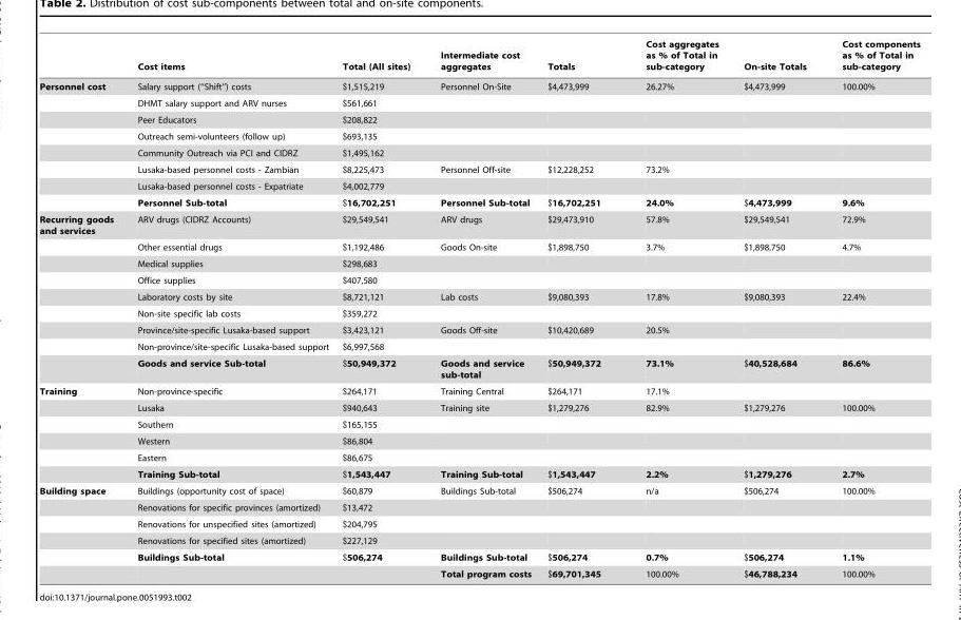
<table><thead><tr><td></td><td>Cost items</td><td>Total (All sites)</td><td>Intermediate cost aggregates</td><td>Totals</td><td>Cost aggregates as % of Total in sub-category</td><td>On-site Totals</td><td>Cost components as % of Total in sub-category</td></tr></thead><tbody><tr><td rowspan="8">Personnel cost</td><td>Salary support (‘‘Shift’’) costs</td><td>$1,515,219</td><td>Personnel On-Site</td><td>$4,473,999</td><td>26.27%</td><td>$4,473,999</td><td>100.00%</td></tr><tr><td>DHMT salary support and ARV nurses</td><td>$561,661</td><td></td><td></td><td></td><td></td><td></td></tr><tr><td>Peer Educators</td><td>$208,822</td><td></td><td></td><td></td><td></td><td></td></tr><tr><td>Outreach semi-volunteers (follow up)</td><td>$693,135</td><td></td><td></td><td></td><td></td><td></td></tr><tr><td>Community Outreach via PCI and CIDRZ</td><td>$1,495,162</td><td></td><td></td><td></td><td></td><td></td></tr><tr><td>Lusaka-based personnel costs - Zambian</td><td>$8,225,473</td><td>Personnel Off-site</td><td>$12,228,252</td><td>73.2%</td><td></td><td></td></tr><tr><td>Lusaka-based personnel costs - Expatriate</td><td>$4,002,779</td><td></td><td></td><td></td><td></td><td></td></tr><tr><td>Personnel Sub-total</td><td>$16,702,251</td><td>Personnel Sub-total</td><td>$16,702,251</td><td>24.0%</td><td>$4,473,999</td><td>9.6%</td></tr><tr><td rowspan="9">Recurring goods and services</td><td>ARV drugs (CIDRZ Accounts)</td><td>$29,549,541</td><td>ARV drugs</td><td>$29,473,910</td><td>57.8%</td><td>$29,549,541</td><td>72.9%</td></tr><tr><td>Other essential drugs</td><td>$1,192,486</td><td>Goods On-site</td><td>$1,898,750</td><td>3.7%</td><td>$1,898,750</td><td>4.7%</td></tr><tr><td>Medical supplies</td><td>$298,683</td><td></td><td></td><td></td><td></td><td></td></tr><tr><td>Office supplies</td><td>$407,580</td><td></td><td></td><td></td><td></td><td></td></tr><tr><td>Laboratory costs by site</td><td>$8,721,121</td><td>Lab costs</td><td>$9,080,393</td><td>17.8%</td><td>$9,080,393</td><td>22.4%</td></tr><tr><td>Non-site specific lab costs</td><td>$359,272</td><td></td><td></td><td></td><td></td><td></td></tr><tr><td>Province/site-specific Lusaka-based support</td><td>$3,423,121</td><td>Goods Off-site</td><td>$10,420,689</td><td>20.5%</td><td></td><td></td></tr><tr><td>Non-province/site-specific Lusaka-based support</td><td>$6,997,568</td><td></td><td></td><td></td><td></td><td></td></tr><tr><td>Goods and service Sub-total</td><td>$50,949,372</td><td>Goods and service sub-total</td><td>$50,949,372</td><td>73.1%</td><td>$40,528,684</td><td>86.6%</td></tr><tr><td rowspan="6">Training</td><td>Non-province-specific</td><td>$264,171</td><td>Training Central</td><td>$264,171</td><td>17.1%</td><td></td><td></td></tr><tr><td>Lusaka</td><td>$940,643</td><td>Training site</td><td>$1,279,276</td><td>82.9%</td><td>$1,279,276</td><td>100.00%</td></tr><tr><td>Southern</td><td>$165,155</td><td></td><td></td><td></td><td></td><td></td></tr><tr><td>Western</td><td>$86,804</td><td></td><td></td><td></td><td></td><td></td></tr><tr><td>Eastern</td><td>$86,675</td><td></td><td></td><td></td><td></td><td></td></tr><tr><td>Training Sub-total</td><td>$1,543,447</td><td>Training Sub-total</td><td>$1,543,447</td><td>2.2%</td><td>$1,279,276</td><td>2.7%</td></tr><tr><td rowspan="6">Building space</td><td>Buildings (opportunity cost of space)</td><td>$60,879</td><td>Buildings Sub-total</td><td>$506,274</td><td>n/a</td><td>$506,274</td><td>100.00%</td></tr><tr><td>Renovations for specific provinces (amortized)</td><td>$13,472</td><td></td><td></td><td></td><td></td><td></td></tr><tr><td>Renovations for unspecified sites (amortized)</td><td>$204,795</td><td></td><td></td><td></td><td></td><td></td></tr><tr><td>Renovations for specified sites (amortized)</td><td>$227,129</td><td></td><td></td><td></td><td></td><td></td></tr><tr><td>Buildings Sub-total</td><td>$506,274</td><td>Buildings Sub-total</td><td>$506,274</td><td>0.7%</td><td>$506,274</td><td>1.1%</td></tr><tr><td></td><td></td><td>Total program costs</td><td>$69,701,345</td><td>100.00%</td><td>$46,788,234</td><td>100.00%</td></tr></tbody></table>